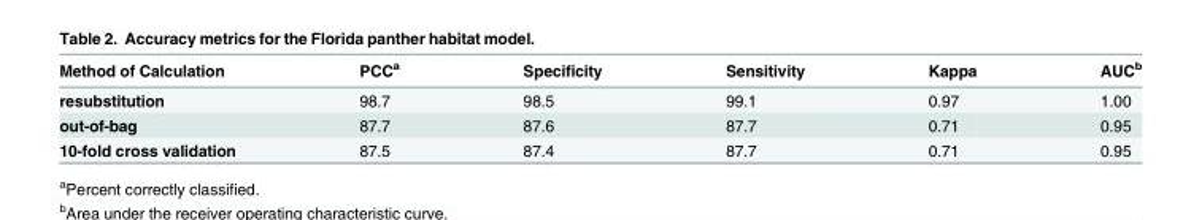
<table><thead><tr><td>Method of Calculation</td><td>PCC<sup>a</sup></td><td>Specificity</td><td>Sensitivity</td><td>Kappa</td><td>AUC<sup>b</sup></td></tr></thead><tbody><tr><td>resubstitution</td><td>98.7</td><td>98.5</td><td>99.1</td><td>0.97</td><td>1.00</td></tr><tr><td>out-of-bag</td><td>87.7</td><td>87.6</td><td>87.7</td><td>0.71</td><td>0.95</td></tr><tr><td>10-fold cross validation</td><td>87.5</td><td>87.4</td><td>87.7</td><td>0.71</td><td>0.95</td></tr></tbody></table>